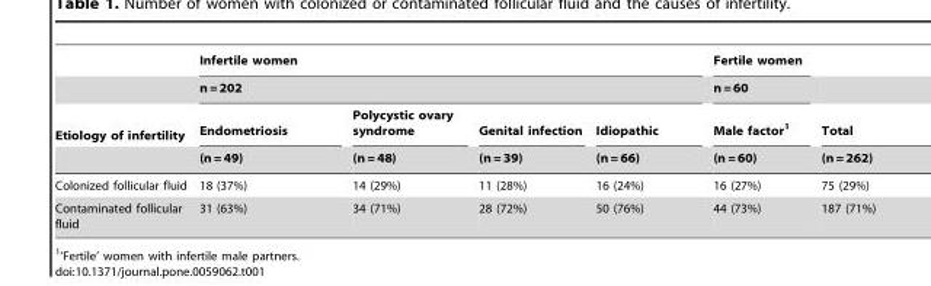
<table><thead><tr><td rowspan="4">Etiology of infertility</td><td rowspan="2" colspan="4">Infertile women n = 202</td><td rowspan="4">Fertile women n = 60 Male factor<sup>1</sup> (n = 60)</td><td rowspan="4">Total (n = 262)</td></tr><tr></tr><tr><td rowspan="2">Endometriosis (n = 49)</td><td rowspan="2">Polycystic ovary syndrome (n = 48)</td><td rowspan="2">Genital infection (n = 39)</td><td rowspan="2">Idiopathic (n = 66)</td></tr><tr></tr></thead><tbody><tr><td>Colonized follicular fluid</td><td>18 (37%)</td><td>14 (29%)</td><td>11 (28%)</td><td>16 (24%)</td><td>16 (27%)</td><td>75 (29%)</td></tr><tr><td>Contaminated follicular fluid</td><td>31 (63%)</td><td>34 (71%)</td><td>28 (72%)</td><td>50 (76%)</td><td>44 (73%)</td><td>187 (71%)</td></tr></tbody></table>